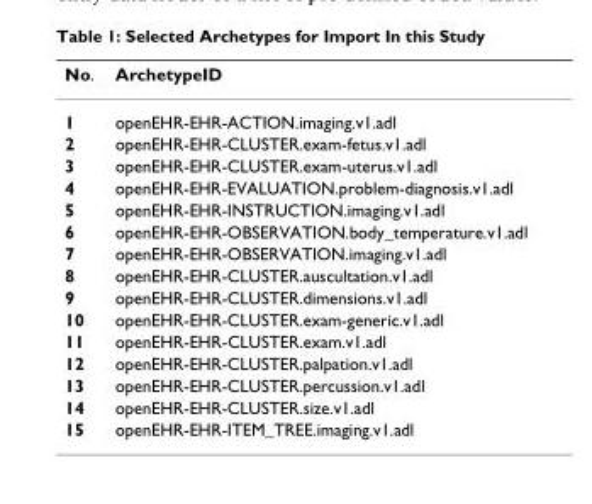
<table><thead><tr><td>No.</td><td>ArchetypeID</td></tr></thead><tbody><tr><td>1</td><td>openEHR-EHR-ACTION.imaging.v1.adl</td></tr><tr><td>2</td><td>openEHR-EHR-CLUSTER.exam-fetus.v1.adl</td></tr><tr><td>3</td><td>openEHR-EHR-CLUSTER.exam-uterus.v1.adl</td></tr><tr><td>4</td><td>openEHR-EHR-EVALUATION.problem-diagnosis.v1.adl</td></tr><tr><td>5</td><td>openEHR-EHR-INSTRUCTION.imaging.v1.adl</td></tr><tr><td>6</td><td>openEHR-EHR-OBSERVATION.body_temperature.v1.adl</td></tr><tr><td>7</td><td>openEHR-EHR-OBSERVATION.imaging.v1.adl</td></tr><tr><td>8</td><td>openEHR-EHR-CLUSTER.auscultation.v1.adl</td></tr><tr><td>9</td><td>openEHR-EHR-CLUSTER.dimensions.v1.adl</td></tr><tr><td>10</td><td>openEHR-EHR-CLUSTER.exam-generic.v1.adl</td></tr><tr><td>11</td><td>openEHR-EHR-CLUSTER.exam.v1.adl</td></tr><tr><td>12</td><td>openEHR-EHR-CLUSTER.palpation.v1.adl</td></tr><tr><td>13</td><td>openEHR-EHR-CLUSTER.percussion.v1.adl</td></tr><tr><td>14</td><td>openEHR-EHR-CLUSTER.size.v1.adl</td></tr><tr><td>15</td><td>openEHR-EHR-ITEM_TREE.imaging.v1.adl</td></tr></tbody></table>